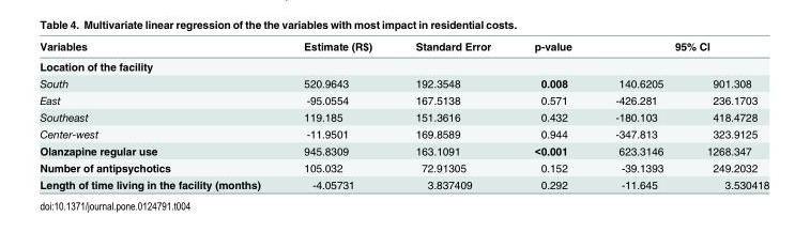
<table><thead><tr><td>Variables</td><td>Estimate (R$)</td><td>Standard Error</td><td>p-value</td><td colspan="2">95% CI</td></tr><tr><td colspan="6">Location of the facility</td></tr><tr><td>South</td><td>520.9643</td><td>192.3548</td><td>0.008</td><td>140.6205</td><td>901.308</td></tr></thead><tbody><tr><td>East</td><td>-95.0554</td><td>167.5138</td><td>0.571</td><td>-426.281</td><td>236.1703</td></tr><tr><td>Southeast</td><td>119.185</td><td>151.3616</td><td>0.432</td><td>-180.103</td><td>418.4728</td></tr><tr><td>Center-west</td><td>-11.9501</td><td>169.8589</td><td>0.944</td><td>-347.813</td><td>323.9125</td></tr><tr><td>Olanzapine regular use</td><td>945.8309</td><td>163.1091</td><td>&lt;0.001</td><td>623.3146</td><td>1268.347</td></tr><tr><td>Number of antipsychotics</td><td>105.032</td><td>72.91305</td><td>0.152</td><td>-39.1393</td><td>249.2032</td></tr><tr><td>Length of time living in the facility (months)</td><td>-4.05731</td><td>3.837409</td><td>0.292</td><td>-11.645</td><td>3.530418</td></tr></tbody></table>